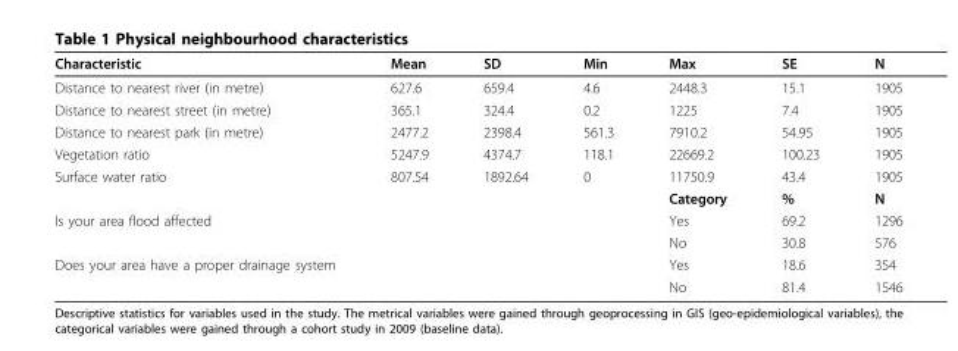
<table><thead><tr><td>Characteristic</td><td>Mean</td><td>SD</td><td>Min</td><td>Max</td><td>SE</td><td>N</td></tr></thead><tbody><tr><td>Distance to nearest river (in metre)</td><td>627.6</td><td>659.4</td><td>4.6</td><td>2448.3</td><td>15.1</td><td>1905</td></tr><tr><td>Distance to nearest street (in metre)</td><td>365.1</td><td>324.4</td><td>0.2</td><td>1225</td><td>7.4</td><td>1905</td></tr><tr><td>Distance to nearest park (in metre)</td><td>2477.2</td><td>2398.4</td><td>561.3</td><td>7910.2</td><td>54.95</td><td>1905</td></tr><tr><td>Vegetation ratio</td><td>5247.9</td><td>4374.7</td><td>118.1</td><td>22669.2</td><td>100.23</td><td>1905</td></tr><tr><td rowspan="2">Surface water ratio</td><td>807.54</td><td>1892.64</td><td>0</td><td>11750.9</td><td>43.4</td><td>1905</td></tr><tr><td></td><td></td><td></td><td>Category</td><td>%</td><td>N</td></tr><tr><td rowspan="2">Is your area flood affected</td><td></td><td></td><td></td><td>Yes</td><td>69.2</td><td>1296</td></tr><tr><td></td><td></td><td></td><td>No</td><td>30.8</td><td>576</td></tr><tr><td rowspan="2">Does your area have a proper drainage system</td><td></td><td></td><td></td><td>Yes</td><td>18.6</td><td>354</td></tr><tr><td></td><td></td><td></td><td>No</td><td>81.4</td><td>1546</td></tr></tbody></table>